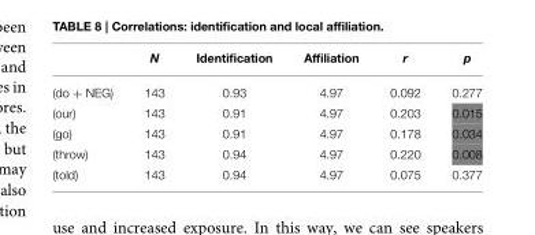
<table><thead><tr><td></td><td>N</td><td>Identification</td><td>Affiliation</td><td>r</td><td>p</td></tr></thead><tbody><tr><td>(do + NEG)</td><td>143</td><td>0.93</td><td>4.97</td><td>0.092</td><td>0.277</td></tr><tr><td>(our)</td><td>143</td><td>0.91</td><td>4.97</td><td>0.203</td><td>0.015</td></tr><tr><td>(go)</td><td>143</td><td>0.91</td><td>4.97</td><td>0.178</td><td>0.034</td></tr><tr><td>(throw)</td><td>143</td><td>0.94</td><td>4.97</td><td>0.220</td><td>0.008</td></tr><tr><td>(told)</td><td>143</td><td>0.94</td><td>4.97</td><td>0.075</td><td>0.377</td></tr></tbody></table>